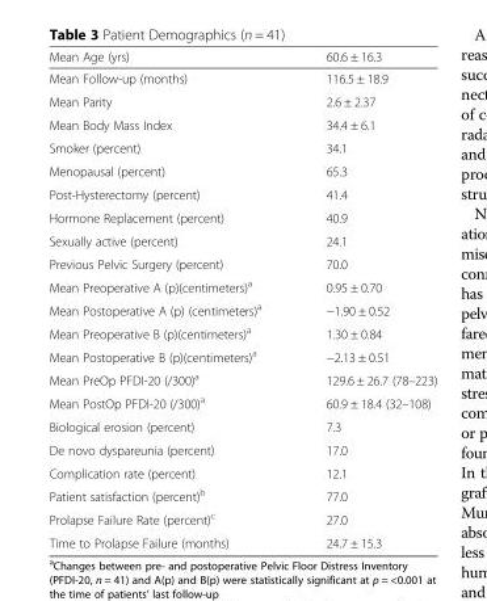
<table><thead><tr><td>Mean Age (yrs)</td><td>60.6 ± 16.3</td></tr></thead><tbody><tr><td>Mean Follow-up (months)</td><td>116.5 ± 18.9</td></tr><tr><td>Mean Parity</td><td>2.6 ± 2.37</td></tr><tr><td>Mean Body Mass Index</td><td>34.4 ± 6.1</td></tr><tr><td>Smoker (percent)</td><td>34.1</td></tr><tr><td>Menopausal (percent)</td><td>65.3</td></tr><tr><td>Post-Hysterectomy (percent)</td><td>41.4</td></tr><tr><td>Hormone Replacement (percent)</td><td>40.9</td></tr><tr><td>Sexually active (percent)</td><td>24.1</td></tr><tr><td>Previous Pelvic Surgery (percent)</td><td>70.0</td></tr><tr><td>Mean Preoperative A (p)(centimeters)<sup>a</sup></td><td>0.95 ± 0.70</td></tr><tr><td>Mean Postoperative A (p) (centimeters)<sup>a</sup></td><td>−1.90 ± 0.52</td></tr><tr><td>Mean Preoperative B (p)(centimeters)<sup>a</sup></td><td>1.30 ± 0.84</td></tr><tr><td>Mean Postoperative B (p)(centimeters)<sup>a</sup></td><td>−2.13 ± 0.51</td></tr><tr><td>Mean PreOp PFDI-20 (/300)<sup>a</sup></td><td>129.6 ± 26.7 (78–223)</td></tr><tr><td>Mean PostOp PFDI-20 (/300)<sup>a</sup></td><td>60.9 ± 18.4 (32–108)</td></tr><tr><td>Biological erosion (percent)</td><td>7.3</td></tr><tr><td>De novo dyspareunia (percent)</td><td>17.0</td></tr><tr><td>Complication rate (percent)</td><td>12.1</td></tr><tr><td>Patient satisfaction (percent)<sup>b</sup></td><td>77.0</td></tr><tr><td>Prolapse Failure Rate (percent)<sup>c</sup></td><td>27.0</td></tr><tr><td>Time to Prolapse Failure (months)</td><td>24.7 ± 15.3</td></tr></tbody></table>